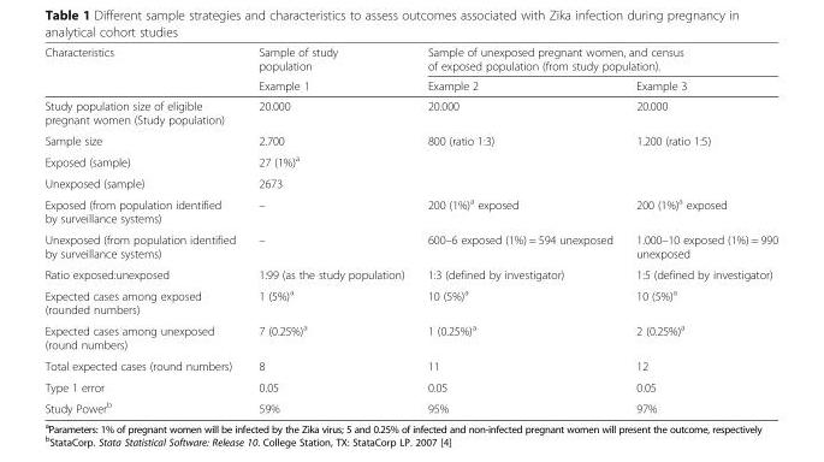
<table><thead><tr><td rowspan="2">Characteristics</td><td rowspan="2">Sample of study population Example 1</td><td colspan="2">Sample of unexposed pregnant women, and census of exposed population (from study population).</td></tr><tr><td>Example 2</td><td>Example 3</td></tr></thead><tbody><tr><td>Study population size of eligible pregnant women (Study population)</td><td>20.000</td><td>20.000</td><td>20.000</td></tr><tr><td>Sample size</td><td>2.700</td><td>800 (ratio 1:3)</td><td>1.200 (ratio 1:5)</td></tr><tr><td>Exposed (sample)</td><td>27 (1%)<sup>a</sup></td><td></td><td></td></tr><tr><td>Unexposed (sample)</td><td>2673</td><td></td><td></td></tr><tr><td>Exposed (from population identified by surveillance systems)</td><td>–</td><td>200 (1%)<sup>a</sup> exposed</td><td>200 (1%)<sup>a</sup> exposed</td></tr><tr><td>Unexposed (from population identified by surveillance systems)</td><td>–</td><td>600–6 exposed (1%) = 594 unexposed</td><td>1.000–10 exposed (1%) = 990 unexposed</td></tr><tr><td>Ratio exposed:unexposed</td><td>1:99 (as the study population)</td><td>1:3 (defined by investigator)</td><td>1:5 (defined by investigator)</td></tr><tr><td>Expected cases among exposed (rounded numbers)</td><td>1 (5%)<sup>a</sup></td><td>10 (5%)<sup>a</sup></td><td>10 (5%)<sup>a</sup></td></tr><tr><td>Expected cases among unexposed (round numbers)</td><td>7 (0.25%)<sup>a</sup></td><td>1 (0.25%)<sup>a</sup></td><td>2 (0.25%)<sup>a</sup></td></tr><tr><td>Total expected cases (round numbers)</td><td>8</td><td>11</td><td>12</td></tr><tr><td>Type 1 error</td><td>0.05</td><td>0.05</td><td>0.05</td></tr><tr><td>Study Power<sup>b</sup></td><td>59%</td><td>95%</td><td>97%</td></tr></tbody></table>